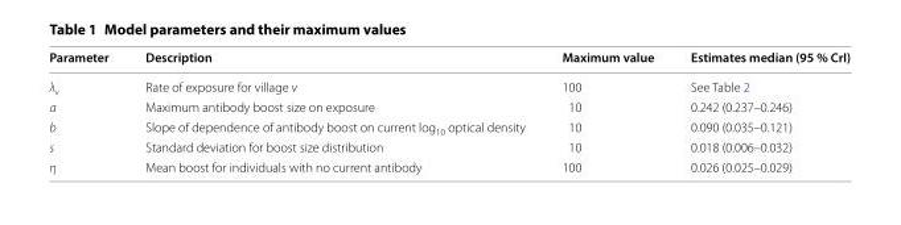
<table><thead><tr><td>Parameter</td><td>Description</td><td>Maximum value</td><td>Estimates median (95 % CrI)</td></tr></thead><tbody><tr><td>λ<sub>v</sub></td><td>Rate of exposure for village v</td><td>100</td><td>See Table 2</td></tr><tr><td>a</td><td>Maximum antibody boost size on exposure</td><td>10</td><td>0.242 (0.237–0.246)</td></tr><tr><td>b</td><td>Slope of dependence of antibody boost on current log<sub>10</sub> optical density</td><td>10</td><td>0.090 (0.035–0.121)</td></tr><tr><td>s</td><td>Standard deviation for boost size distribution</td><td>10</td><td>0.018 (0.006–0.032)</td></tr><tr><td>η</td><td>Mean boost for individuals with no current antibody</td><td>100</td><td>0.026 (0.025–0.029)</td></tr></tbody></table>